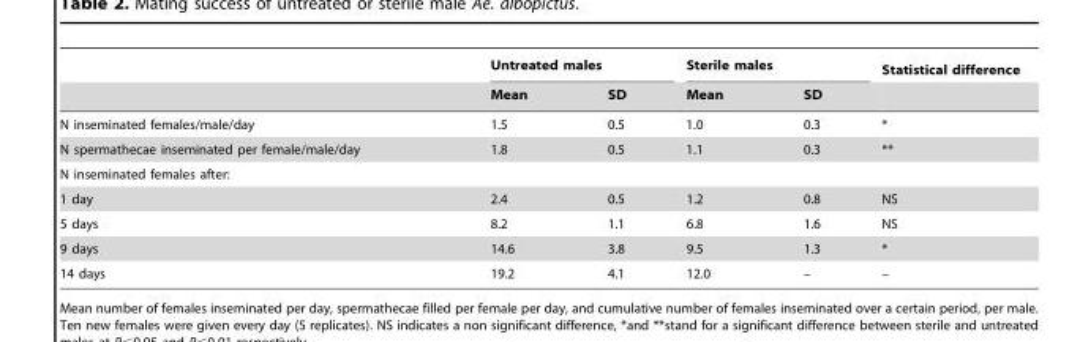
<table><thead><tr><td rowspan="2"></td><td colspan="2">Untreated males</td><td colspan="2">Sterile males</td><td rowspan="2">Statistical difference</td></tr><tr><td>Mean</td><td>SD</td><td>Mean</td><td>SD</td></tr></thead><tbody><tr><td>N inseminated females/male/day</td><td>1.5</td><td>0.5</td><td>1.0</td><td>0.3</td><td>*</td></tr><tr><td>N spermathecae inseminated per female/male/day</td><td>1.8</td><td>0.5</td><td>1.1</td><td>0.3</td><td>**</td></tr><tr><td colspan="6">N inseminated females after:</td></tr><tr><td>1 day</td><td>2.4</td><td>0.5</td><td>1.2</td><td>0.8</td><td>NS</td></tr><tr><td>5 days</td><td>8.2</td><td>1.1</td><td>6.8</td><td>1.6</td><td>NS</td></tr><tr><td>9 days</td><td>14.6</td><td>3.8</td><td>9.5</td><td>1.3</td><td>*</td></tr><tr><td>14 days</td><td>19.2</td><td>4.1</td><td>12.0</td><td>–</td><td>–</td></tr></tbody></table>